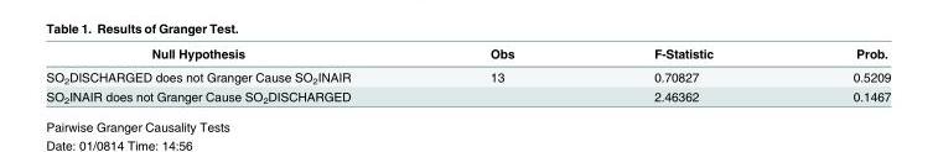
<table><thead><tr><td>Null Hypothesis</td><td>Obs</td><td>F-Statistic</td><td>Prob.</td></tr></thead><tbody><tr><td>SO<sub>2</sub>DISCHARGED does not Granger Cause SO<sub>2</sub>INAIR</td><td>13</td><td>0.70827</td><td>0.5209</td></tr><tr><td>SO<sub>2</sub>INAIR does not Granger Cause SO<sub>2</sub>DISCHARGED</td><td></td><td>2.46362</td><td>0.1467</td></tr></tbody></table>